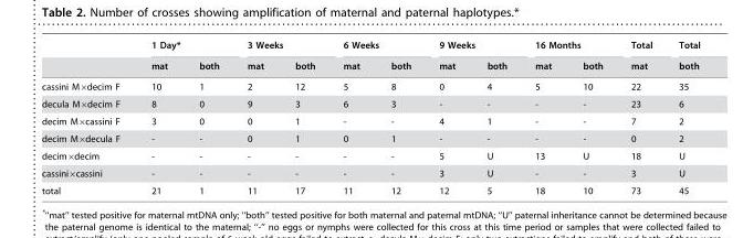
<table><thead><tr><td rowspan="2"></td><td colspan="2">1 Day*</td><td colspan="2">3 Weeks</td><td colspan="2">6 Weeks</td><td colspan="2">9 Weeks</td><td colspan="2">16 Months</td><td rowspan="2">Total mat</td><td rowspan="2">Total both</td></tr><tr><td>mat</td><td>both</td><td>mat</td><td>both</td><td>mat</td><td>both</td><td>mat</td><td>both</td><td>mat</td><td>both</td></tr></thead><tbody><tr><td>cassini M×decim F</td><td>10</td><td>1</td><td>2</td><td>12</td><td>5</td><td>8</td><td>0</td><td>4</td><td>5</td><td>10</td><td>22</td><td>35</td></tr><tr><td>decula M×decim F</td><td>8</td><td>0</td><td>9</td><td>3</td><td>6</td><td>3</td><td>-</td><td>-</td><td>-</td><td>-</td><td>23</td><td>6</td></tr><tr><td>decim M×cassini F</td><td>3</td><td>0</td><td>0</td><td>1</td><td>-</td><td>-</td><td>4</td><td>1</td><td>-</td><td>-</td><td>7</td><td>2</td></tr><tr><td>decim M×decula F</td><td>-</td><td>-</td><td>0</td><td>1</td><td>0</td><td>1</td><td>-</td><td>-</td><td>-</td><td>-</td><td>0</td><td>2</td></tr><tr><td>decim×decim</td><td>-</td><td>-</td><td>-</td><td>-</td><td>-</td><td>-</td><td>5</td><td>U</td><td>13</td><td>U</td><td>18</td><td>U</td></tr><tr><td>cassini×cassini</td><td>-</td><td>-</td><td>-</td><td>-</td><td>-</td><td>-</td><td>3</td><td>U</td><td>-</td><td>-</td><td>3</td><td>U</td></tr><tr><td>total</td><td>21</td><td>1</td><td>11</td><td>17</td><td>11</td><td>12</td><td>12</td><td>5</td><td>18</td><td>10</td><td>73</td><td>45</td></tr></tbody></table>